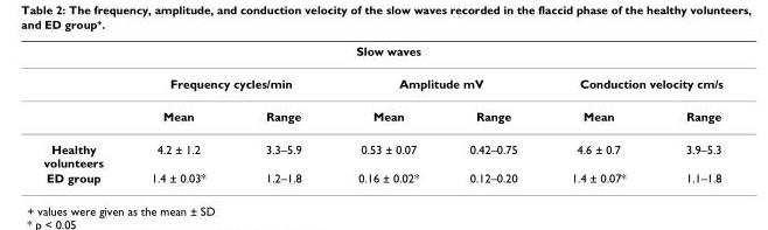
<table><thead><tr><td colspan="7">Slow waves</td></tr><tr><td rowspan="2"></td><td colspan="2">Frequency cycles/min</td><td colspan="2">Amplitude mV</td><td colspan="2">Conduction velocity cm/s</td></tr><tr><td>Mean</td><td>Range</td><td>Mean</td><td>Range</td><td>Mean</td><td>Range</td></tr></thead><tbody><tr><td>Healthy volunteers</td><td>4.2 ± 1.2</td><td>3.3–5.9</td><td>0.53 ± 0.07</td><td>0.42–0.75</td><td>4.6 ± 0.7</td><td>3.9–5.3</td></tr><tr><td>ED group</td><td>1.4 ± 0.03*</td><td>1.2–1.8</td><td>0.16 ± 0.02*</td><td>0.12–0.20</td><td>1.4 ± 0.07*</td><td>1.1–1.8</td></tr></tbody></table>